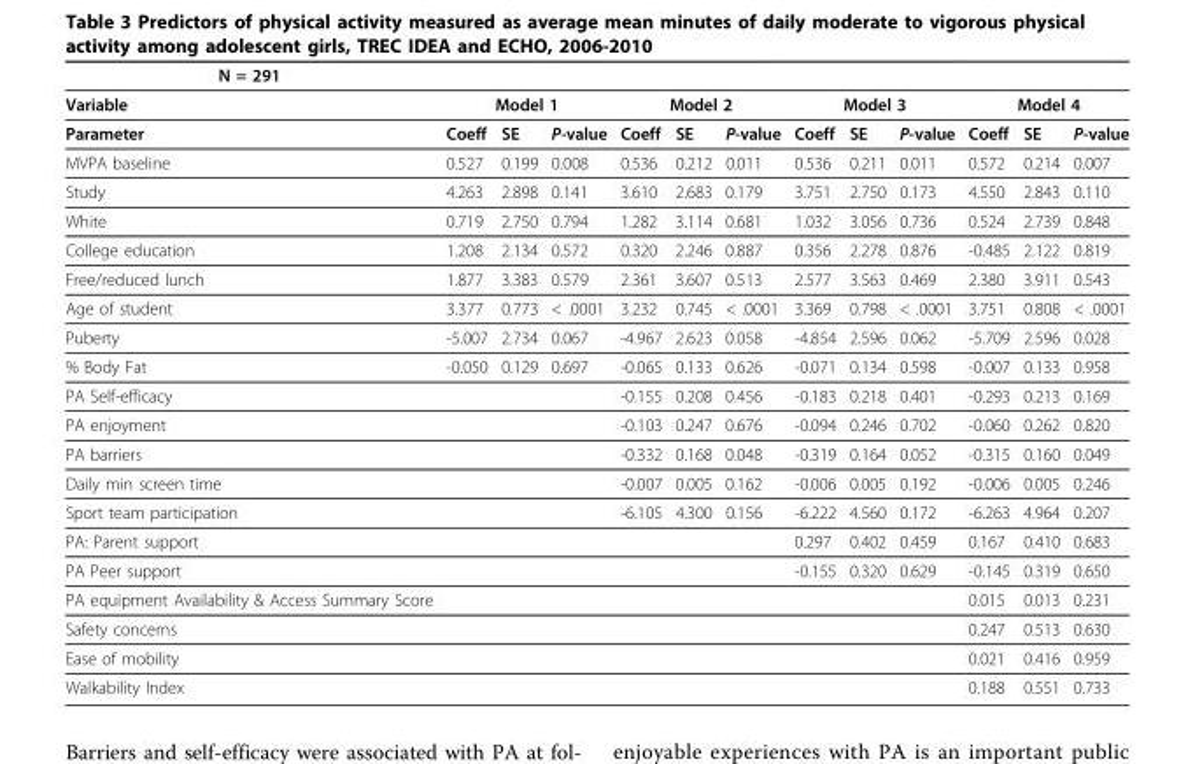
<table><thead><tr><td>N = 291</td><td></td><td></td><td></td><td></td><td></td><td></td><td></td><td></td><td></td><td></td><td></td><td></td></tr></thead><tbody><tr><td>Variable</td><td colspan="3">Model 1</td><td colspan="3">Model 2</td><td colspan="3">Model 3</td><td colspan="3">Model 4</td></tr><tr><td>Parameter</td><td>Coeff</td><td>SE</td><td>P-value</td><td>Coeff</td><td>SE</td><td>P-value</td><td>Coeff</td><td>SE</td><td>P-value</td><td>Coeff</td><td>SE</td><td>P-value</td></tr><tr><td>MVPA baseline</td><td>0.527</td><td>0.199</td><td>0.008</td><td>0.536</td><td>0.212</td><td>0.011</td><td>0.536</td><td>0.211</td><td>0.011</td><td>0.572</td><td>0.214</td><td>0.007</td></tr><tr><td>Study</td><td>4.263</td><td>2.898</td><td>0.141</td><td>3.610</td><td>2.683</td><td>0.179</td><td>3.751</td><td>2.750</td><td>0.173</td><td>4.550</td><td>2.843</td><td>0.110</td></tr><tr><td>White</td><td>0.719</td><td>2.750</td><td>0.794</td><td>1.282</td><td>3.114</td><td>0.681</td><td>1.032</td><td>3.056</td><td>0.736</td><td>0.524</td><td>2.739</td><td>0.848</td></tr><tr><td>College education</td><td>1.208</td><td>2.134</td><td>0.572</td><td>0.320</td><td>2.246</td><td>0.887</td><td>0.356</td><td>2.278</td><td>0.876</td><td>-0.485</td><td>2.122</td><td>0.819</td></tr><tr><td>Free/reduced lunch</td><td>1.877</td><td>3.383</td><td>0.579</td><td>2.361</td><td>3.607</td><td>0.513</td><td>2.577</td><td>3.563</td><td>0.469</td><td>2.380</td><td>3.911</td><td>0.543</td></tr><tr><td>Age of student</td><td>3.377</td><td>0.773</td><td>&lt; .0001</td><td>3.232</td><td>0.745</td><td>&lt; .0001</td><td>3.369</td><td>0.798</td><td>&lt; .0001</td><td>3.751</td><td>0.808</td><td>&lt; .0001</td></tr><tr><td>Puberty</td><td>-5.007</td><td>2.734</td><td>0.067</td><td>-4.967</td><td>2.623</td><td>0.058</td><td>-4.854</td><td>2.596</td><td>0.062</td><td>-5.709</td><td>2.596</td><td>0.028</td></tr><tr><td>% Body Fat</td><td>-0.050</td><td>0.129</td><td>0.697</td><td>-0.065</td><td>0.133</td><td>0.626</td><td>-0.071</td><td>0.134</td><td>0.598</td><td>-0.007</td><td>0.133</td><td>0.958</td></tr><tr><td>PA Self-efficacy</td><td></td><td></td><td></td><td>-0.155</td><td>0.208</td><td>0.456</td><td>-0.183</td><td>0.218</td><td>0.401</td><td>-0.293</td><td>0.213</td><td>0.169</td></tr><tr><td>PA enjoyment</td><td></td><td></td><td></td><td>-0.103</td><td>0.247</td><td>0.676</td><td>-0.094</td><td>0.246</td><td>0.702</td><td>-0.060</td><td>0.262</td><td>0.820</td></tr><tr><td>PA barriers</td><td></td><td></td><td></td><td>-0.332</td><td>0.168</td><td>0.048</td><td>-0.319</td><td>0.164</td><td>0.052</td><td>-0.315</td><td>0.160</td><td>0.049</td></tr><tr><td>Daily min screen time</td><td></td><td></td><td></td><td>-0.007</td><td>0.005</td><td>0.162</td><td>-0.006</td><td>0.005</td><td>0.192</td><td>-0.006</td><td>0.005</td><td>0.246</td></tr><tr><td>Sport team participation</td><td></td><td></td><td></td><td>-6.105</td><td>4.300</td><td>0.156</td><td>-6.222</td><td>4.560</td><td>0.172</td><td>-6.263</td><td>4.964</td><td>0.207</td></tr><tr><td>PA: Parent support</td><td></td><td></td><td></td><td></td><td></td><td></td><td>0.297</td><td>0.402</td><td>0.459</td><td>0.167</td><td>0.410</td><td>0.683</td></tr><tr><td>PA Peer support</td><td></td><td></td><td></td><td></td><td></td><td></td><td>-0.155</td><td>0.320</td><td>0.629</td><td>-0.145</td><td>0.319</td><td>0.650</td></tr><tr><td>PA equipment Availability &amp; Access Summary Score</td><td></td><td></td><td></td><td></td><td></td><td></td><td></td><td></td><td></td><td>0.015</td><td>0.013</td><td>0.231</td></tr><tr><td>Safety concerns</td><td></td><td></td><td></td><td></td><td></td><td></td><td></td><td></td><td></td><td>0.247</td><td>0.513</td><td>0.630</td></tr><tr><td>Ease of mobility</td><td></td><td></td><td></td><td></td><td></td><td></td><td></td><td></td><td></td><td>0.021</td><td>0.416</td><td>0.959</td></tr><tr><td>Walkability Index</td><td></td><td></td><td></td><td></td><td></td><td></td><td></td><td></td><td></td><td>0.188</td><td>0.551</td><td>0.733</td></tr></tbody></table>